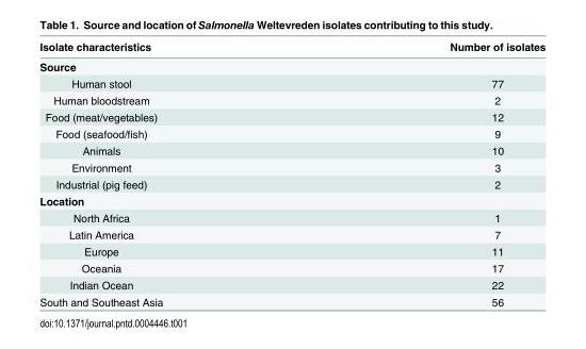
<table><thead><tr><td>Isolate characteristics</td><td>Number of isolates</td></tr></thead><tbody><tr><td colspan="2">Source</td></tr><tr><td>Human stool</td><td>77</td></tr><tr><td>Human bloodstream</td><td>2</td></tr><tr><td>Food (meat/vegetables)</td><td>12</td></tr><tr><td>Food (seafood/fish)</td><td>9</td></tr><tr><td>Animals</td><td>10</td></tr><tr><td>Environment</td><td>3</td></tr><tr><td>Industrial (pig feed)</td><td>2</td></tr><tr><td colspan="2">Location</td></tr><tr><td>North Africa</td><td>1</td></tr><tr><td>Latin America</td><td>7</td></tr><tr><td>Europe</td><td>11</td></tr><tr><td>Oceania</td><td>17</td></tr><tr><td>Indian Ocean</td><td>22</td></tr><tr><td>South and Southeast Asia</td><td>56</td></tr></tbody></table>